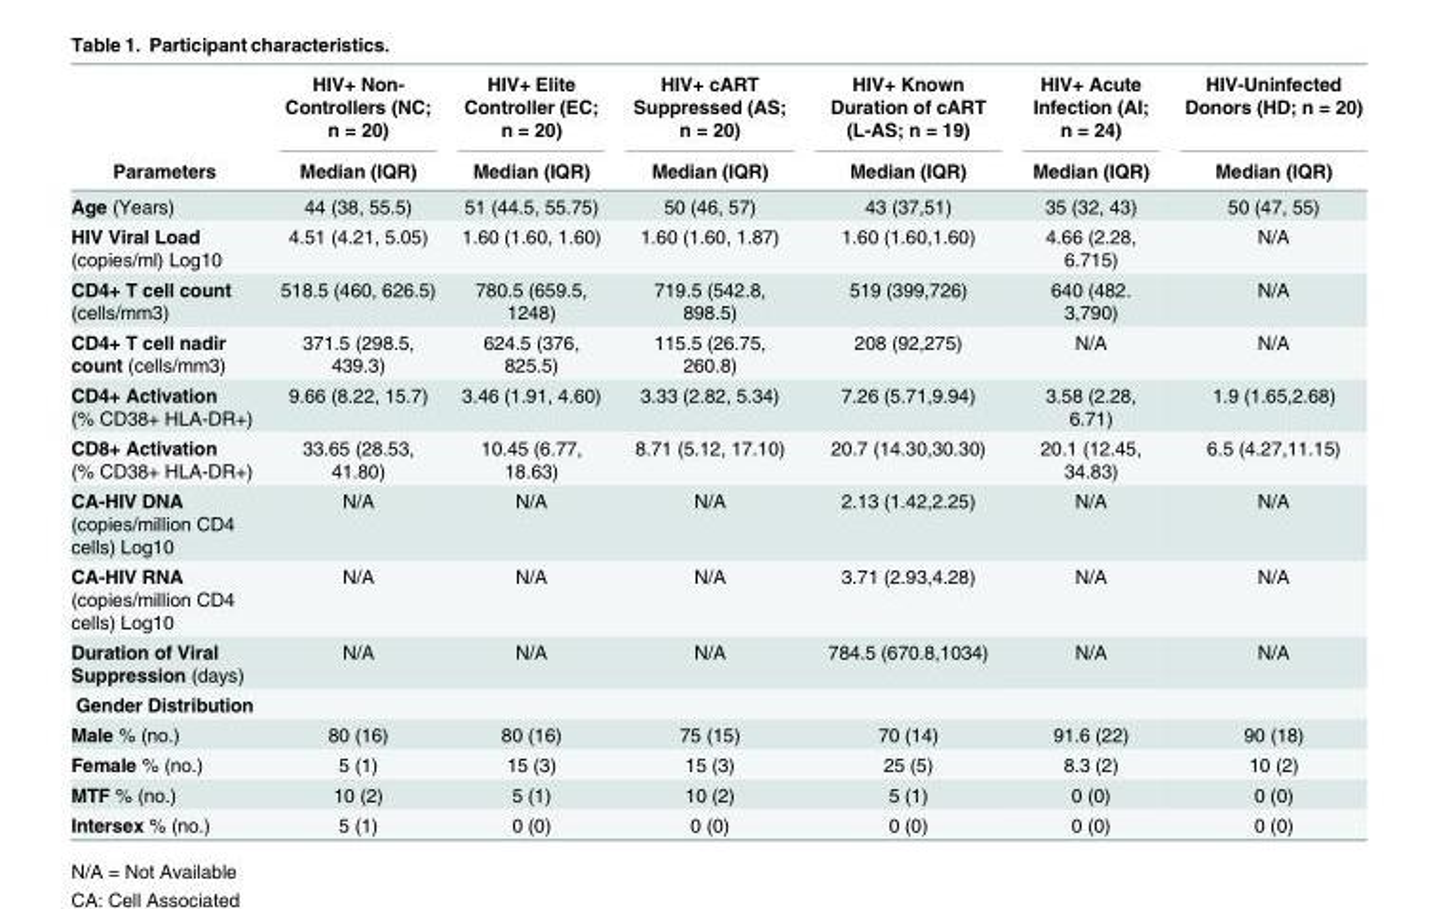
<table><thead><tr><td rowspan="2">Parameters</td><td rowspan="2">HIV+ Non- Controllers (NC; n = 20) Median (IQR)</td><td rowspan="2">HIV+ Elite Controller (EC; n = 20) Median (IQR)</td><td rowspan="2">HIV+ cART Suppressed (AS; n = 20) Median (IQR)</td><td rowspan="2">HIV+ Known Duration of cART (L-AS; n = 19) Median (IQR)</td><td rowspan="2">HIV+ Acute Infection (AI; n = 24) Median (IQR)</td><td rowspan="2">HIV-Uninfected Donors (HD; n = 20) Median (IQR)</td></tr><tr></tr></thead><tbody><tr><td>Age (Years)</td><td>44 (38, 55.5)</td><td>51 (44.5, 55.75)</td><td>50 (46, 57)</td><td>43 (37,51)</td><td>35 (32, 43)</td><td>50 (47, 55)</td></tr><tr><td>HIV Viral Load (copies/ml) Log10</td><td>4.51 (4.21, 5.05)</td><td>1.60 (1.60, 1.60)</td><td>1.60 (1.60, 1.87)</td><td>1.60 (1.60,1.60)</td><td>4.66 (2.28, 6.715)</td><td>N/A</td></tr><tr><td>CD4+ T cell count (cells/mm3)</td><td>518.5 (460, 626.5)</td><td>780.5 (659.5, 1248)</td><td>719.5 (542.8, 898.5)</td><td>519 (399,726)</td><td>640 (482. 3,790)</td><td>N/A</td></tr><tr><td>CD4+ T cell nadir count (cells/mm3)</td><td>371.5 (298.5, 439.3)</td><td>624.5 (376, 825.5)</td><td>115.5 (26.75, 260.8)</td><td>208 (92,275)</td><td>N/A</td><td>N/A</td></tr><tr><td>CD4+ Activation (% CD38+ HLA-DR+)</td><td>9.66 (8.22, 15.7)</td><td>3.46 (1.91, 4.60)</td><td>3.33 (2.82, 5.34)</td><td>7.26 (5.71,9.94)</td><td>3.58 (2.28, 6.71)</td><td>1.9 (1.65,2.68)</td></tr><tr><td>CD8+ Activation (% CD38+ HLA-DR+)</td><td>33.65 (28.53, 41.80)</td><td>10.45 (6.77, 18.63)</td><td>8.71 (5.12, 17.10)</td><td>20.7 (14.30,30.30)</td><td>20.1 (12.45, 34.83)</td><td>6.5 (4.27,11.15)</td></tr><tr><td>CA-HIV DNA (copies/million CD4 cells) Log10</td><td>N/A</td><td>N/A</td><td>N/A</td><td>2.13 (1.42,2.25)</td><td>N/A</td><td>N/A</td></tr><tr><td>CA-HIV RNA (copies/million CD4 cells) Log10</td><td>N/A</td><td>N/A</td><td>N/A</td><td>3.71 (2.93,4.28)</td><td>N/A</td><td>N/A</td></tr><tr><td>Duration of Viral Suppression (days)</td><td>N/A</td><td>N/A</td><td>N/A</td><td>784.5 (670.8,1034)</td><td>N/A</td><td>N/A</td></tr><tr><td colspan="7">Gender Distribution</td></tr><tr><td>Male % (no.)</td><td>80 (16)</td><td>80 (16)</td><td>75 (15)</td><td>70 (14)</td><td>91.6 (22)</td><td>90 (18)</td></tr><tr><td>Female % (no.)</td><td>5 (1)</td><td>15 (3)</td><td>15 (3)</td><td>25 (5)</td><td>8.3 (2)</td><td>10 (2)</td></tr><tr><td>MTF % (no.)</td><td>10 (2)</td><td>5 (1)</td><td>10 (2)</td><td>5 (1)</td><td>0 (0)</td><td>0 (0)</td></tr><tr><td>Intersex % (no.)</td><td>5 (1)</td><td>0 (0)</td><td>0 (0)</td><td>0 (0)</td><td>0 (0)</td><td>0 (0)</td></tr></tbody></table>